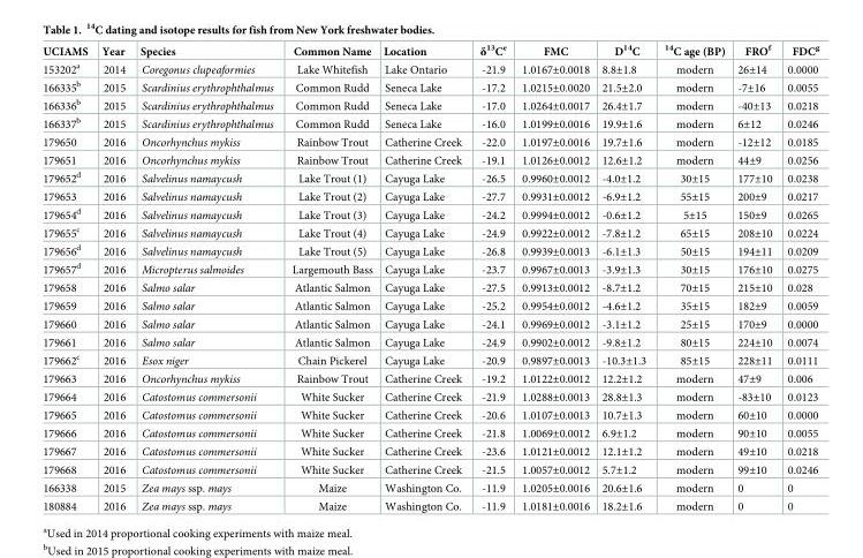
<table><thead><tr><td>UCIAMS</td><td>Year</td><td>Species</td><td>Common Name</td><td>Location</td><td>δ<sup>13</sup>C<sup>e</sup></td><td>FMC</td><td>D<sup>14</sup>C</td><td><sup>14</sup>C age (BP)</td><td>FRO<sup>f</sup></td><td>FDC<sup>g</sup></td></tr></thead><tbody><tr><td>153202<sup>a</sup></td><td>2014</td><td>Coregonus clupeaformies</td><td>Lake Whitefish</td><td>Lake Ontario</td><td>-21.9</td><td>1.0167±0.0018</td><td>8.8±1.8</td><td>modern</td><td>26±14</td><td>0.0000</td></tr><tr><td>166335<sup>b</sup></td><td>2015</td><td>Scardinius erythrophthalmus</td><td>Common Rudd</td><td>Seneca Lake</td><td>-17.2</td><td>1.0215±0.0020</td><td>21.5±2.0</td><td>modern</td><td>-7±16</td><td>0.0055</td></tr><tr><td>166336<sup>b</sup></td><td>2015</td><td>Scardinius erythrophthalmus</td><td>Common Rudd</td><td>Seneca Lake</td><td>-17.0</td><td>1.0264±0.0017</td><td>26.4±1.7</td><td>modern</td><td>-40±13</td><td>0.0218</td></tr><tr><td>166337<sup>b</sup></td><td>2015</td><td>Scardinius erythrophthalmus</td><td>Common Rudd</td><td>Seneca Lake</td><td>-16.0</td><td>1.0199±0.0016</td><td>19.9±1.6</td><td>modern</td><td>6±12</td><td>0.0246</td></tr><tr><td>179650</td><td>2016</td><td>Oncorhynchus mykiss</td><td>Rainbow Trout</td><td>Catherine Creek</td><td>-22.0</td><td>1.0197±0.0016</td><td>19.7±1.6</td><td>modern</td><td>-12±12</td><td>0.0185</td></tr><tr><td>179651</td><td>2016</td><td>Oncorhynchus mykiss</td><td>Rainbow Trout</td><td>Catherine Creek</td><td>-19.1</td><td>1.0126±0.0012</td><td>12.6±1.2</td><td>modern</td><td>44±9</td><td>0.0256</td></tr><tr><td>179652<sup>d</sup></td><td>2016</td><td>Salvelinus namaycush</td><td>Lake Trout (1)</td><td>Cayuga Lake</td><td>-26.5</td><td>0.9960±0.0012</td><td>-4.0±1.2</td><td>30±15</td><td>177±10</td><td>0.0238</td></tr><tr><td>179653</td><td>2016</td><td>Salvelinus namaycush</td><td>Lake Trout (2)</td><td>Cayuga Lake</td><td>-27.7</td><td>0.9931±0.0012</td><td>-6.9±1.2</td><td>55±15</td><td>200±9</td><td>0.0217</td></tr><tr><td>179654<sup>d</sup></td><td>2016</td><td>Salvelinus namaycush</td><td>Lake Trout (3)</td><td>Cayuga Lake</td><td>-24.2</td><td>0.9994±0.0012</td><td>-0.6±1.2</td><td>5±15</td><td>150±9</td><td>0.0265</td></tr><tr><td>179655<sup>c</sup></td><td>2016</td><td>Salvelinus namaycush</td><td>Lake Trout (4)</td><td>Cayuga Lake</td><td>-24.9</td><td>0.9922±0.0012</td><td>-7.8±1.2</td><td>65±15</td><td>208±10</td><td>0.0224</td></tr><tr><td>179656<sup>d</sup></td><td>2016</td><td>Salvelinus namaycush</td><td>Lake Trout (5)</td><td>Cayuga Lake</td><td>-26.8</td><td>0.9939±0.0013</td><td>-6.1±1.3</td><td>50±15</td><td>194±11</td><td>0.0209</td></tr><tr><td>179657<sup>d</sup></td><td>2016</td><td>Micropterus salmoides</td><td>Largemouth Bass</td><td>Cayuga Lake</td><td>-23.7</td><td>0.9967±0.0013</td><td>-3.9±1.3</td><td>30±15</td><td>176±10</td><td>0.0275</td></tr><tr><td>179658</td><td>2016</td><td>Salmo salar</td><td>Atlantic Salmon</td><td>Cayuga Lake</td><td>-27.5</td><td>0.9913±0.0012</td><td>-8.7±1.2</td><td>70±15</td><td>215±10</td><td>0.028</td></tr><tr><td>179659</td><td>2016</td><td>Salmo salar</td><td>Atlantic Salmon</td><td>Cayuga Lake</td><td>-25.2</td><td>0.9954±0.0012</td><td>-4.6±1.2</td><td>35±15</td><td>182±9</td><td>0.0059</td></tr><tr><td>179660</td><td>2016</td><td>Salmo salar</td><td>Atlantic Salmon</td><td>Cayuga Lake</td><td>-24.1</td><td>0.9969±0.0012</td><td>-3.1±1.2</td><td>25±15</td><td>170±9</td><td>0.0000</td></tr><tr><td>179661</td><td>2016</td><td>Salmo salar</td><td>Atlantic Salmon</td><td>Cayuga Lake</td><td>-24.9</td><td>0.9902±0.0012</td><td>-9.8±1.2</td><td>80±15</td><td>224±10</td><td>0.0074</td></tr><tr><td>179662<sup>c</sup></td><td>2016</td><td>Esox niger</td><td>Chain Pickerel</td><td>Cayuga Lake</td><td>-20.9</td><td>0.9897±0.0013</td><td>-10.3±1.3</td><td>85±15</td><td>228±11</td><td>0.0111</td></tr><tr><td>179663</td><td>2016</td><td>Oncorhynchus mykiss</td><td>Rainbow Trout</td><td>Catherine Creek</td><td>-19.2</td><td>1.0122±0.0012</td><td>12.2±1.2</td><td>modern</td><td>47±9</td><td>0.006</td></tr><tr><td>179664</td><td>2016</td><td>Catostomus commersonii</td><td>White Sucker</td><td>Catherine Creek</td><td>-21.9</td><td>1.0288±0.0013</td><td>28.8±1.3</td><td>modern</td><td>-83±10</td><td>0.0123</td></tr><tr><td>179665</td><td>2016</td><td>Catostomus commersonii</td><td>White Sucker</td><td>Catherine Creek</td><td>-20.6</td><td>1.0107±0.0013</td><td>10.7±1.3</td><td>modern</td><td>60±10</td><td>0.0000</td></tr><tr><td>179666</td><td>2016</td><td>Catostomus commersonii</td><td>White Sucker</td><td>Catherine Creek</td><td>-21.8</td><td>1.0069±0.0012</td><td>6.9±1.2</td><td>modern</td><td>90±10</td><td>0.0055</td></tr><tr><td>179667</td><td>2016</td><td>Catostomus commersonii</td><td>White Sucker</td><td>Catherine Creek</td><td>-23.6</td><td>1.0121±0.0012</td><td>12.1±1.2</td><td>modern</td><td>49±10</td><td>0.0218</td></tr><tr><td>179668</td><td>2016</td><td>Catostomus commersonii</td><td>White Sucker</td><td>Catherine Creek</td><td>-21.5</td><td>1.0057±0.0012</td><td>5.7±1.2</td><td>modern</td><td>99±10</td><td>0.0246</td></tr><tr><td>166338</td><td>2015</td><td>Zea mays ssp. mays</td><td>Maize</td><td>Washington Co.</td><td>-11.9</td><td>1.0205±0.0016</td><td>20.6±1.6</td><td>modern</td><td>0</td><td>0</td></tr><tr><td>180884</td><td>2016</td><td>Zea mays ssp. mays</td><td>Maize</td><td>Washington Co.</td><td>-11.9</td><td>1.0181±0.0016</td><td>18.2±1.6</td><td>modern</td><td>0</td><td>0</td></tr></tbody></table>